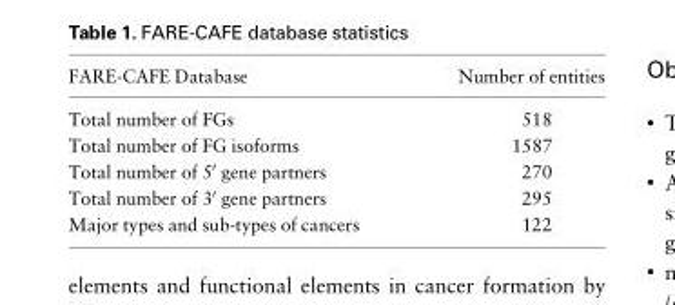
<table><thead><tr><td>FARE-CAFE Database</td><td>Number of entities</td></tr></thead><tbody><tr><td>Total number of FGs</td><td>518</td></tr><tr><td>Total number of FG isoforms</td><td>1587</td></tr><tr><td>Total number of 5′ gene partners</td><td>270</td></tr><tr><td>Total number of 3′ gene partners</td><td>295</td></tr><tr><td>Major types and sub-types of cancers</td><td>122</td></tr></tbody></table>